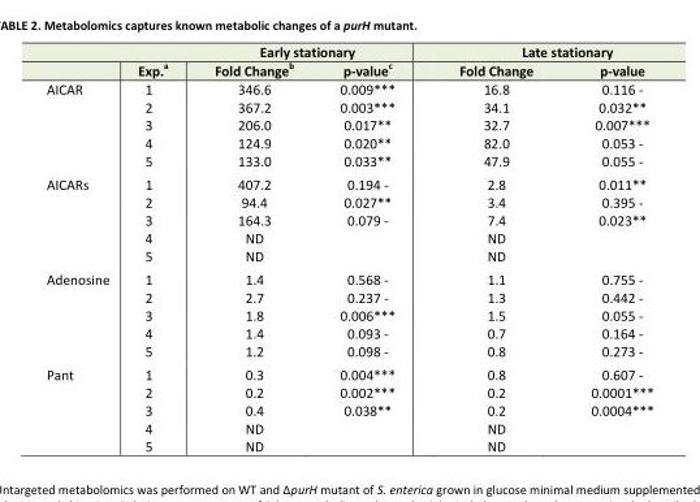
<table><thead><tr><td rowspan="2"></td><td rowspan="2">Exp.<sup>a</sup></td><td colspan="2">Early stationary</td><td colspan="2">Late stationary</td></tr><tr><td>Fold Change<sup>b</sup></td><td>p-value<sup>c</sup></td><td>Fold Change</td><td>p-value</td></tr></thead><tbody><tr><td rowspan="5">AICAR</td><td>1</td><td>346.6</td><td>0.009***</td><td>16.8</td><td>0.116 -</td></tr><tr><td>2</td><td>367.2</td><td>0.003***</td><td>34.1</td><td>0.032**</td></tr><tr><td>3</td><td>206.0</td><td>0.017**</td><td>32.7</td><td>0.007***</td></tr><tr><td>4</td><td>124.9</td><td>0.020**</td><td>82.0</td><td>0.053 -</td></tr><tr><td>5</td><td>133.0</td><td>0.033**</td><td>47.9</td><td>0.055 -</td></tr><tr><td rowspan="5">AICARs</td><td>1</td><td>407.2</td><td>0.194 -</td><td>2.8</td><td>0.011**</td></tr><tr><td>2</td><td>94.4</td><td>0.027**</td><td>3.4</td><td>0.395 -</td></tr><tr><td>3</td><td>164.3</td><td>0.079 -</td><td>7.4</td><td>0.023**</td></tr><tr><td>4</td><td>ND</td><td></td><td>ND</td><td></td></tr><tr><td>5</td><td>ND</td><td></td><td>ND</td><td></td></tr><tr><td rowspan="5">Adenosine</td><td>1</td><td>1.4</td><td>0.568 -</td><td>1.1</td><td>0.755 -</td></tr><tr><td>2</td><td>2.7</td><td>0.237 -</td><td>1.3</td><td>0.442 -</td></tr><tr><td>3</td><td>1.8</td><td>0.006***</td><td>1.5</td><td>0.055 -</td></tr><tr><td>4</td><td>1.4</td><td>0.093 -</td><td>0.7</td><td>0.164 -</td></tr><tr><td>5</td><td>1.2</td><td>0.098 -</td><td>0.8</td><td>0.273 -</td></tr><tr><td rowspan="5">Pant</td><td>1</td><td>0.3</td><td>0.004***</td><td>0.8</td><td>0.607 -</td></tr><tr><td>2</td><td>0.2</td><td>0.002***</td><td>0.2</td><td>0.0001***</td></tr><tr><td>3</td><td>0.4</td><td>0.038**</td><td>0.2</td><td>0.0004***</td></tr><tr><td>4</td><td>ND</td><td></td><td>ND</td><td></td></tr><tr><td>5</td><td>ND</td><td></td><td>ND</td><td></td></tr></tbody></table>